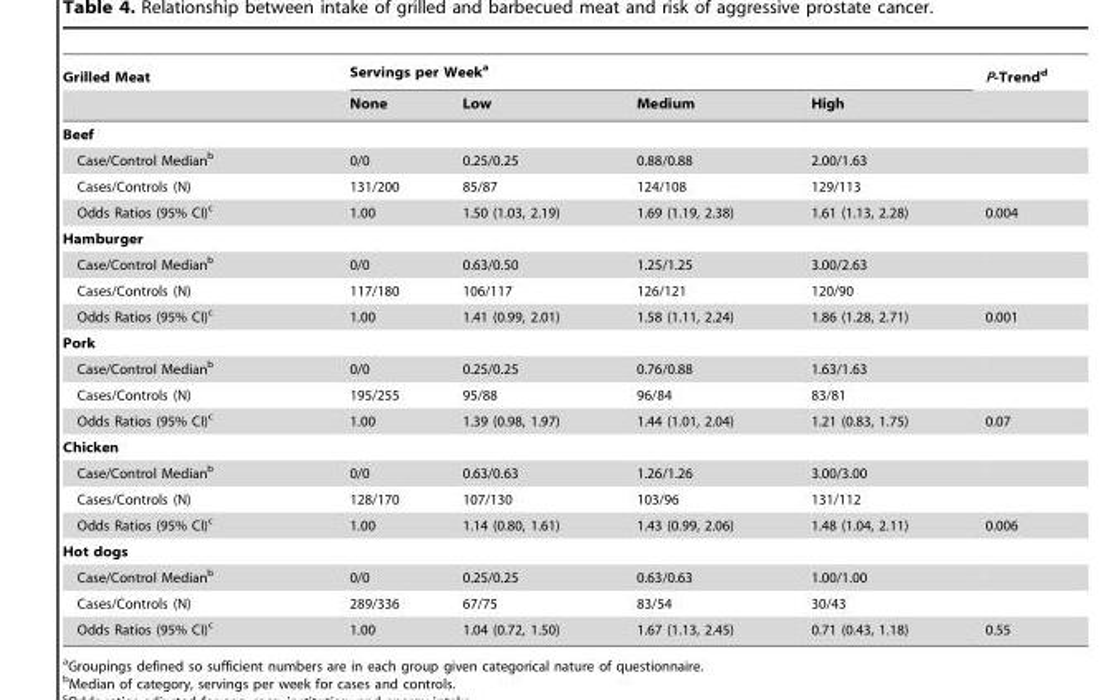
<table><thead><tr><td rowspan="2">Grilled Meat</td><td colspan="4">Servings per Week<sup>a</sup></td><td rowspan="2">P-Trend<sup>d</sup></td></tr><tr><td>None</td><td>Low</td><td>Medium</td><td>High</td></tr></thead><tbody><tr><td colspan="6">Beef</td></tr><tr><td>Case/Control Median<sup>b</sup></td><td>0/0</td><td>0.25/0.25</td><td>0.88/0.88</td><td>2.00/1.63</td><td></td></tr><tr><td>Cases/Controls (N)</td><td>131/200</td><td>85/87</td><td>124/108</td><td>129/113</td><td></td></tr><tr><td>Odds Ratios (95% CI)<sup>c</sup></td><td>1.00</td><td>1.50 (1.03, 2.19)</td><td>1.69 (1.19, 2.38)</td><td>1.61 (1.13, 2.28)</td><td>0.004</td></tr><tr><td colspan="6">Hamburger</td></tr><tr><td>Case/Control Median<sup>b</sup></td><td>0/0</td><td>0.63/0.50</td><td>1.25/1.25</td><td>3.00/2.63</td><td></td></tr><tr><td>Cases/Controls (N)</td><td>117/180</td><td>106/117</td><td>126/121</td><td>120/90</td><td></td></tr><tr><td>Odds Ratios (95% CI)<sup>c</sup></td><td>1.00</td><td>1.41 (0.99, 2.01)</td><td>1.58 (1.11, 2.24)</td><td>1.86 (1.28, 2.71)</td><td>0.001</td></tr><tr><td colspan="6">Pork</td></tr><tr><td>Case/Control Median<sup>b</sup></td><td>0/0</td><td>0.25/0.25</td><td>0.76/0.88</td><td>1.63/1.63</td><td></td></tr><tr><td>Cases/Controls (N)</td><td>195/255</td><td>95/88</td><td>96/84</td><td>83/81</td><td></td></tr><tr><td>Odds Ratios (95% CI)<sup>c</sup></td><td>1.00</td><td>1.39 (0.98, 1.97)</td><td>1.44 (1.01, 2.04)</td><td>1.21 (0.83, 1.75)</td><td>0.07</td></tr><tr><td colspan="6">Chicken</td></tr><tr><td>Case/Control Median<sup>b</sup></td><td>0/0</td><td>0.63/0.63</td><td>1.26/1.26</td><td>3.00/3.00</td><td></td></tr><tr><td>Cases/Controls (N)</td><td>128/170</td><td>107/130</td><td>103/96</td><td>131/112</td><td></td></tr><tr><td>Odds Ratios (95% CI)<sup>c</sup></td><td>1.00</td><td>1.14 (0.80, 1.61)</td><td>1.43 (0.99, 2.06)</td><td>1.48 (1.04, 2.11)</td><td>0.006</td></tr><tr><td colspan="6">Hot dogs</td></tr><tr><td>Case/Control Median<sup>b</sup></td><td>0/0</td><td>0.25/0.25</td><td>0.63/0.63</td><td>1.00/1.00</td><td></td></tr><tr><td>Cases/Controls (N)</td><td>289/336</td><td>67/75</td><td>83/54</td><td>30/43</td><td></td></tr><tr><td>Odds Ratios (95% CI)<sup>c</sup></td><td>1.00</td><td>1.04 (0.72, 1.50)</td><td>1.67 (1.13, 2.45)</td><td>0.71 (0.43, 1.18)</td><td>0.55</td></tr></tbody></table>